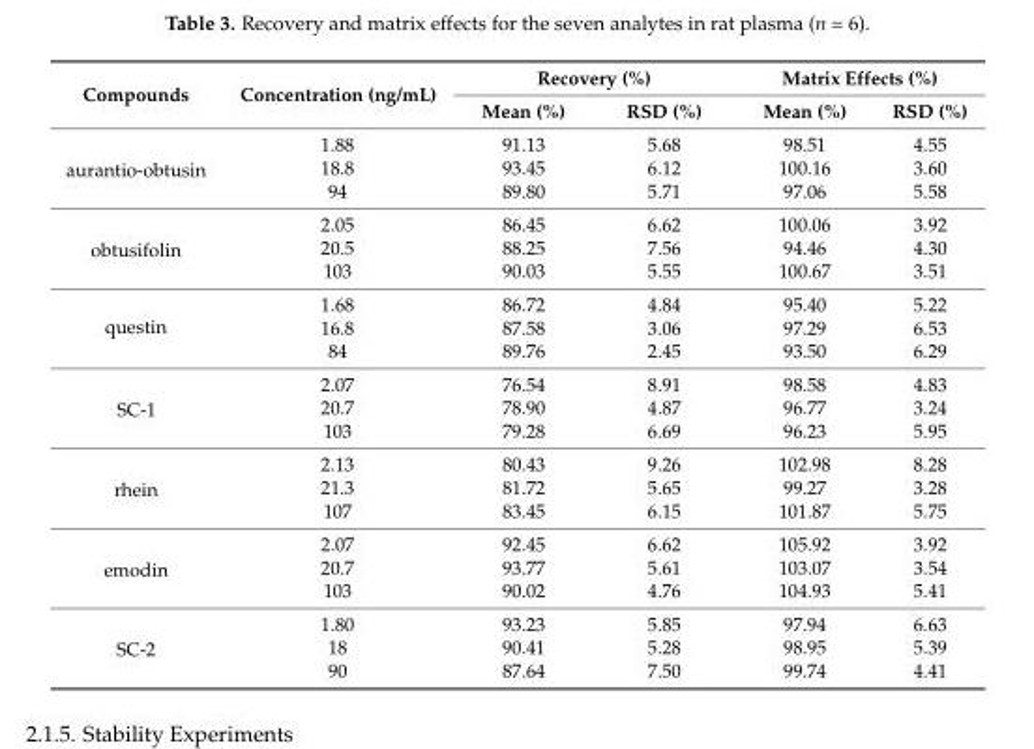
<table><thead><tr><td rowspan="2">Compounds</td><td rowspan="2">Concentration (ng/mL)</td><td colspan="2">Recovery (%)</td><td colspan="2">Matrix Effects (%)</td></tr><tr><td>Mean (%)</td><td>RSD (%)</td><td>Mean (%)</td><td>RSD (%)</td></tr></thead><tbody><tr><td rowspan="3">aurantio-obtusin</td><td>1.88</td><td>91.13</td><td>5.68</td><td>98.51</td><td>4.55</td></tr><tr><td>18.8</td><td>93.45</td><td>6.12</td><td>100.16</td><td>3.60</td></tr><tr><td>94</td><td>89.80</td><td>5.71</td><td>97.06</td><td>5.58</td></tr><tr><td rowspan="3">obtusifolin</td><td>2.05</td><td>86.45</td><td>6.62</td><td>100.06</td><td>3.92</td></tr><tr><td>20.5</td><td>88.25</td><td>7.56</td><td>94.46</td><td>4.30</td></tr><tr><td>103</td><td>90.03</td><td>5.55</td><td>100.67</td><td>3.51</td></tr><tr><td rowspan="3">questin</td><td>1.68</td><td>86.72</td><td>4.84</td><td>95.40</td><td>5.22</td></tr><tr><td>16.8</td><td>87.58</td><td>3.06</td><td>97.29</td><td>6.53</td></tr><tr><td>84</td><td>89.76</td><td>2.45</td><td>93.50</td><td>6.29</td></tr><tr><td rowspan="3">SC-1</td><td>2.07</td><td>76.54</td><td>8.91</td><td>98.58</td><td>4.83</td></tr><tr><td>20.7</td><td>78.90</td><td>4.87</td><td>96.77</td><td>3.24</td></tr><tr><td>103</td><td>79.28</td><td>6.69</td><td>96.23</td><td>5.95</td></tr><tr><td rowspan="3">rhein</td><td>2.13</td><td>80.43</td><td>9.26</td><td>102.98</td><td>8.28</td></tr><tr><td>21.3</td><td>81.72</td><td>5.65</td><td>99.27</td><td>3.28</td></tr><tr><td>107</td><td>83.45</td><td>6.15</td><td>101.87</td><td>5.75</td></tr><tr><td rowspan="3">emodin</td><td>2.07</td><td>92.45</td><td>6.62</td><td>105.92</td><td>3.92</td></tr><tr><td>20.7</td><td>93.77</td><td>5.61</td><td>103.07</td><td>3.54</td></tr><tr><td>103</td><td>90.02</td><td>4.76</td><td>104.93</td><td>5.41</td></tr><tr><td rowspan="3">SC-2</td><td>1.80</td><td>93.23</td><td>5.85</td><td>97.94</td><td>6.63</td></tr><tr><td>18</td><td>90.41</td><td>5.28</td><td>98.95</td><td>5.39</td></tr><tr><td>90</td><td>87.64</td><td>7.50</td><td>99.74</td><td>4.41</td></tr></tbody></table>